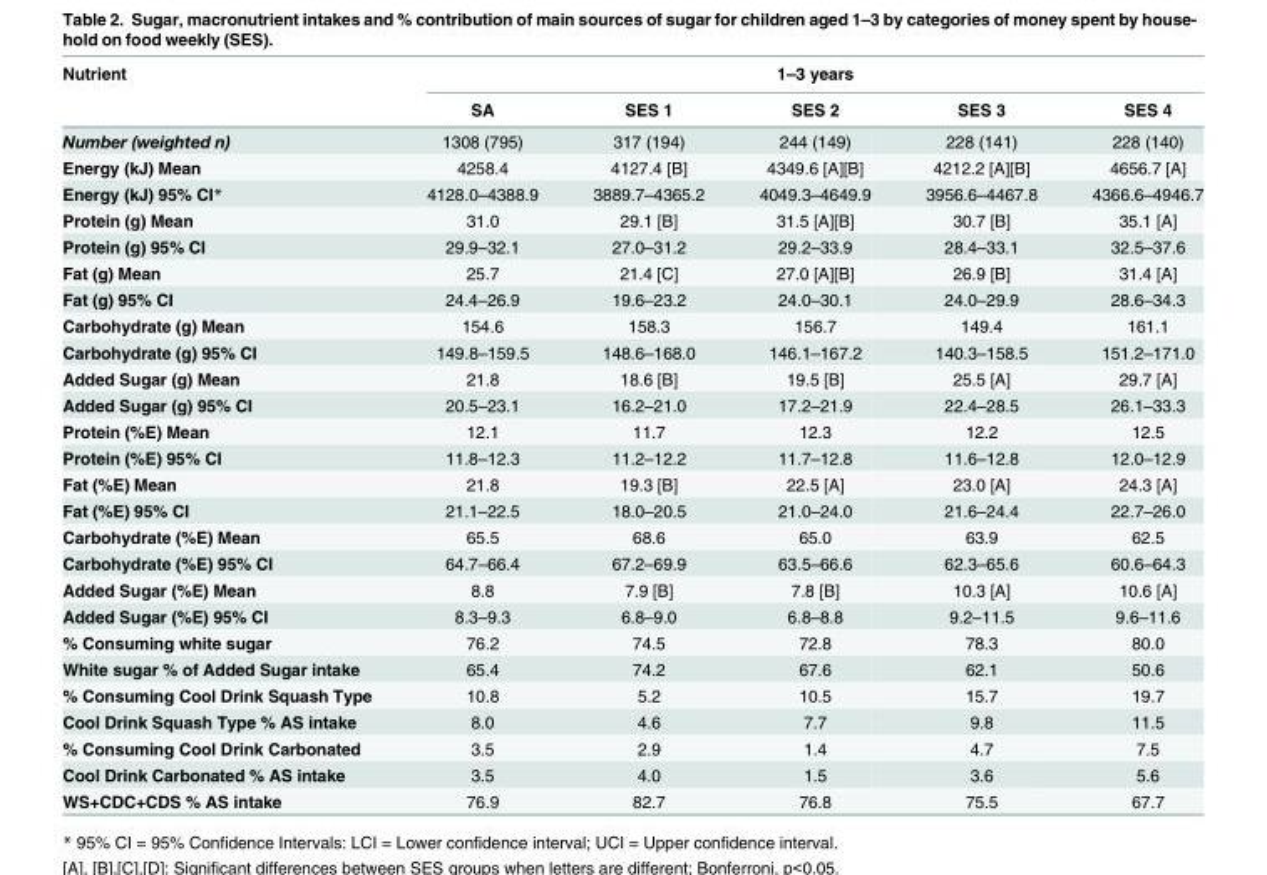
<table><thead><tr><td rowspan="2">Nutrient</td><td colspan="5">1–3 years</td></tr><tr><td>SA</td><td>SES 1</td><td>SES 2</td><td>SES 3</td><td>SES 4</td></tr></thead><tbody><tr><td>Number (weighted n)</td><td>1308 (795)</td><td>317 (194)</td><td>244 (149)</td><td>228 (141)</td><td>228 (140)</td></tr><tr><td>Energy (kJ) Mean</td><td>4258.4</td><td>4127.4 [B]</td><td>4349.6 [A][B]</td><td>4212.2 [A][B]</td><td>4656.7 [A]</td></tr><tr><td>Energy (kJ) 95% CI*</td><td>4128.0–4388.9</td><td>3889.7–4365.2</td><td>4049.3–4649.9</td><td>3956.6–4467.8</td><td>4366.6–4946.7</td></tr><tr><td>Protein (g) Mean</td><td>31.0</td><td>29.1 [B]</td><td>31.5 [A][B]</td><td>30.7 [B]</td><td>35.1 [A]</td></tr><tr><td>Protein (g) 95% CI</td><td>29.9–32.1</td><td>27.0–31.2</td><td>29.2–33.9</td><td>28.4–33.1</td><td>32.5–37.6</td></tr><tr><td>Fat (g) Mean</td><td>25.7</td><td>21.4 [C]</td><td>27.0 [A][B]</td><td>26.9 [B]</td><td>31.4 [A]</td></tr><tr><td>Fat (g) 95% CI</td><td>24.4–26.9</td><td>19.6–23.2</td><td>24.0–30.1</td><td>24.0–29.9</td><td>28.6–34.3</td></tr><tr><td>Carbohydrate (g) Mean</td><td>154.6</td><td>158.3</td><td>156.7</td><td>149.4</td><td>161.1</td></tr><tr><td>Carbohydrate (g) 95% CI</td><td>149.8–159.5</td><td>148.6–168.0</td><td>146.1–167.2</td><td>140.3–158.5</td><td>151.2–171.0</td></tr><tr><td>Added Sugar (g) Mean</td><td>21.8</td><td>18.6 [B]</td><td>19.5 [B]</td><td>25.5 [A]</td><td>29.7 [A]</td></tr><tr><td>Added Sugar (g) 95% CI</td><td>20.5–23.1</td><td>16.2–21.0</td><td>17.2–21.9</td><td>22.4–28.5</td><td>26.1–33.3</td></tr><tr><td>Protein (%E) Mean</td><td>12.1</td><td>11.7</td><td>12.3</td><td>12.2</td><td>12.5</td></tr><tr><td>Protein (%E) 95% CI</td><td>11.8–12.3</td><td>11.2–12.2</td><td>11.7–12.8</td><td>11.6–12.8</td><td>12.0–12.9</td></tr><tr><td>Fat (%E) Mean</td><td>21.8</td><td>19.3 [B]</td><td>22.5 [A]</td><td>23.0 [A]</td><td>24.3 [A]</td></tr><tr><td>Fat (%E) 95% CI</td><td>21.1–22.5</td><td>18.0–20.5</td><td>21.0–24.0</td><td>21.6–24.4</td><td>22.7–26.0</td></tr><tr><td>Carbohydrate (%E) Mean</td><td>65.5</td><td>68.6</td><td>65.0</td><td>63.9</td><td>62.5</td></tr><tr><td>Carbohydrate (%E) 95% CI</td><td>64.7–66.4</td><td>67.2–69.9</td><td>63.5–66.6</td><td>62.3–65.6</td><td>60.6–64.3</td></tr><tr><td>Added Sugar (%E) Mean</td><td>8.8</td><td>7.9 [B]</td><td>7.8 [B]</td><td>10.3 [A]</td><td>10.6 [A]</td></tr><tr><td>Added Sugar (%E) 95% CI</td><td>8.3–9.3</td><td>6.8–9.0</td><td>6.8–8.8</td><td>9.2–11.5</td><td>9.6–11.6</td></tr><tr><td>% Consuming white sugar</td><td>76.2</td><td>74.5</td><td>72.8</td><td>78.3</td><td>80.0</td></tr><tr><td>White sugar % of Added Sugar intake</td><td>65.4</td><td>74.2</td><td>67.6</td><td>62.1</td><td>50.6</td></tr><tr><td>% Consuming Cool Drink Squash Type</td><td>10.8</td><td>5.2</td><td>10.5</td><td>15.7</td><td>19.7</td></tr><tr><td>Cool Drink Squash Type % AS intake</td><td>8.0</td><td>4.6</td><td>7.7</td><td>9.8</td><td>11.5</td></tr><tr><td>% Consuming Cool Drink Carbonated</td><td>3.5</td><td>2.9</td><td>1.4</td><td>4.7</td><td>7.5</td></tr><tr><td>Cool Drink Carbonated % AS intake</td><td>3.5</td><td>4.0</td><td>1.5</td><td>3.6</td><td>5.6</td></tr><tr><td>WS+CDC+CDS % AS intake</td><td>76.9</td><td>82.7</td><td>76.8</td><td>75.5</td><td>67.7</td></tr></tbody></table>